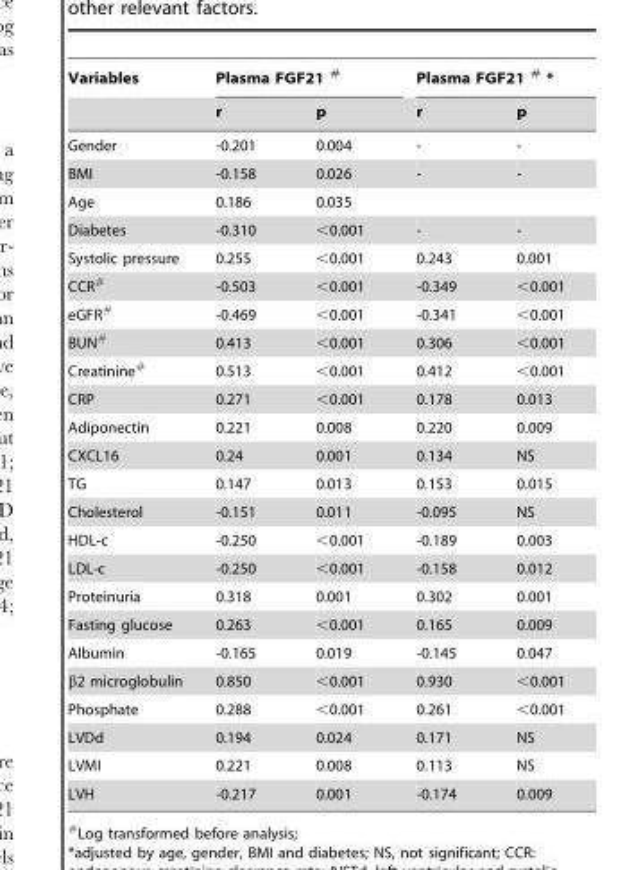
<table><thead><tr><td rowspan="2">Variables</td><td colspan="2">Plasma FGF21 #</td><td colspan="2">Plasma FGF21 # *</td></tr><tr><td>r</td><td>p</td><td>r</td><td>p</td></tr></thead><tbody><tr><td>Gender</td><td>-0.201</td><td>0.004</td><td>-</td><td>-</td></tr><tr><td>BMI</td><td>-0.158</td><td>0.026</td><td>-</td><td>-</td></tr><tr><td>Age</td><td>0.186</td><td>0.035</td><td></td><td></td></tr><tr><td>Diabetes</td><td>-0.310</td><td>&lt;0.001</td><td>-</td><td>-</td></tr><tr><td>Systolic pressure</td><td>0.255</td><td>&lt;0.001</td><td>0.243</td><td>0.001</td></tr><tr><td>CCR#</td><td>-0.503</td><td>&lt;0.001</td><td>-0.349</td><td>&lt;0.001</td></tr><tr><td>eGFR#</td><td>-0.469</td><td>&lt;0.001</td><td>-0.341</td><td>&lt;0.001</td></tr><tr><td>BUN#</td><td>0.413</td><td>&lt;0.001</td><td>0.306</td><td>&lt;0.001</td></tr><tr><td>Creatinine#</td><td>0.513</td><td>&lt;0.001</td><td>0.412</td><td>&lt;0.001</td></tr><tr><td>CRP</td><td>0.271</td><td>&lt;0.001</td><td>0.178</td><td>0.013</td></tr><tr><td>Adiponectin</td><td>0.221</td><td>0.008</td><td>0.220</td><td>0.009</td></tr><tr><td>CXCL16</td><td>0.24</td><td>0.001</td><td>0.134</td><td>NS</td></tr><tr><td>TG</td><td>0.147</td><td>0.013</td><td>0.153</td><td>0.015</td></tr><tr><td>Cholesterol</td><td>-0.151</td><td>0.011</td><td>-0.095</td><td>NS</td></tr><tr><td>HDL-c</td><td>-0.250</td><td>&lt;0.001</td><td>-0.189</td><td>0.003</td></tr><tr><td>LDL-c</td><td>-0.250</td><td>&lt;0.001</td><td>-0.158</td><td>0.012</td></tr><tr><td>Proteinuria</td><td>0.318</td><td>0.001</td><td>0.302</td><td>0.001</td></tr><tr><td>Fasting glucose</td><td>0.263</td><td>&lt;0.001</td><td>0.165</td><td>0.009</td></tr><tr><td>Albumin</td><td>-0.165</td><td>0.019</td><td>-0.145</td><td>0.047</td></tr><tr><td>β2 microglobulin</td><td>0.850</td><td>&lt;0.001</td><td>0.930</td><td>&lt;0.001</td></tr><tr><td>Phosphate</td><td>0.288</td><td>&lt;0.001</td><td>0.261</td><td>&lt;0.001</td></tr><tr><td>LVDd</td><td>0.194</td><td>0.024</td><td>0.171</td><td>NS</td></tr><tr><td>LVMI</td><td>0.221</td><td>0.008</td><td>0.113</td><td>NS</td></tr><tr><td>LVH</td><td>-0.217</td><td>0.001</td><td>-0.174</td><td>0.009</td></tr></tbody></table>